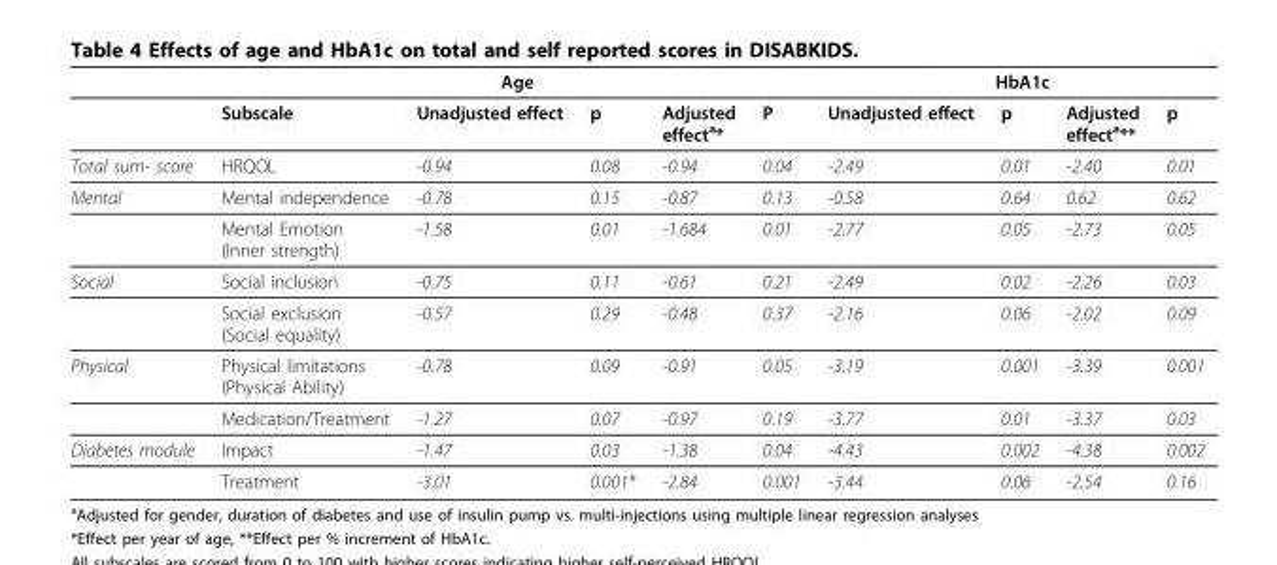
<table><thead><tr><td rowspan="2"></td><td colspan="5">Age</td><td colspan="4">HbA1c</td></tr><tr><td>Subscale</td><td>Unadjusted effect</td><td>p</td><td>Adjusted effecta*</td><td>P</td><td>Unadjusted effect</td><td>p</td><td>Adjusted effecta**</td><td>p</td></tr></thead><tbody><tr><td>Total sum- score</td><td>HRQOL</td><td>-0.94</td><td>0.08</td><td>-0.94</td><td>0.04</td><td>-2.49</td><td>0.01</td><td>-2.40</td><td>0.01</td></tr><tr><td rowspan="2">Mental</td><td>Mental independence</td><td>-0.78</td><td>0.15</td><td>-0.87</td><td>0.13</td><td>-0.58</td><td>0.64</td><td>0.62</td><td>0.62</td></tr><tr><td>Mental Emotion (Inner strength)</td><td>-1.58</td><td>0.01</td><td>-1.684</td><td>0.01</td><td>-2.77</td><td>0.05</td><td>-2.73</td><td>0.05</td></tr><tr><td rowspan="2">Social</td><td>Social inclusion</td><td>-0.75</td><td>0.11</td><td>-0.61</td><td>0.21</td><td>-2.49</td><td>0.02</td><td>-2.26</td><td>0.03</td></tr><tr><td>Social exclusion (Social equality)</td><td>-0.57</td><td>0.29</td><td>-0.48</td><td>0.37</td><td>-2.16</td><td>0.06</td><td>-2.02</td><td>0.09</td></tr><tr><td rowspan="2">Physical</td><td>Physical limitations (Physical Ability)</td><td>-0.78</td><td>0.09</td><td>-0.91</td><td>0.05</td><td>-3.19</td><td>0.001</td><td>-3.39</td><td>0.001</td></tr><tr><td>Medication/Treatment</td><td>-1.27</td><td>0.07</td><td>-0.97</td><td>0.19</td><td>-3.77</td><td>0.01</td><td>-3.37</td><td>0.03</td></tr><tr><td rowspan="2">Diabetes module</td><td>Impact</td><td>-1.47</td><td>0.03</td><td>-1.38</td><td>0.04</td><td>-4.43</td><td>0.002</td><td>-4.38</td><td>0.002</td></tr><tr><td>Treatment</td><td>-3.01</td><td>0.001*</td><td>-2.84</td><td>0.001</td><td>-3.44</td><td>0.06</td><td>-2.54</td><td>0.16</td></tr></tbody></table>